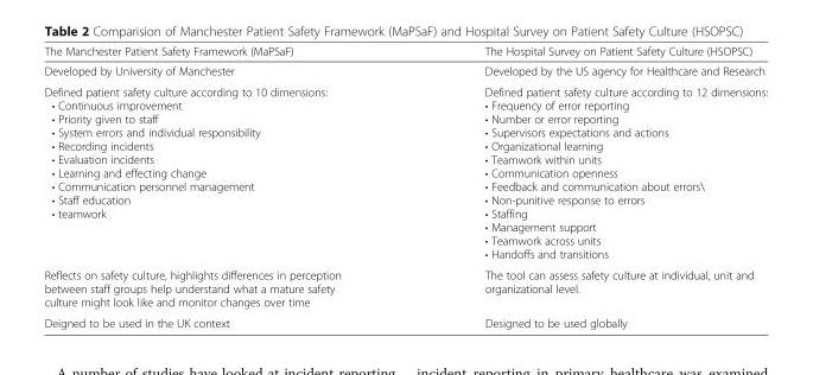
<table><thead><tr><td>The Manchester Patient Safety Framework (MaPSaF)</td><td>The Hospital Survey on Patient Safety Culture (HSOPSC)</td></tr></thead><tbody><tr><td>Developed by University of Manchester</td><td>Developed by the US agency for Healthcare and Research</td></tr><tr><td>Defined patient safety culture according to 10 dimensions: • Continuous improvement • Priority given to staff • System errors and individual responsibility • Recording incidents • Evaluation incidents • Learning and effecting change • Communication personnel management • Staff education • teamwork</td><td>Defined patient safety culture according to 12 dimensions: • Frequency of error reporting • Number or error reporting • Supervisors expectations and actions • Organizational learning • Teamwork within units • Communication openness • Feedback and communication about errors\ • Non-punitive response to errors • Staffing • Management support • Teamwork across units • Handoffs and transitions</td></tr><tr><td>Reflects on safety culture, highlights differences in perception between staff groups help understand what a mature safety culture might look like and monitor changes over time</td><td>The tool can assess safety culture at individual, unit and organizational level.</td></tr><tr><td>Deigned to be used in the UK context</td><td>Designed to be used globally</td></tr></tbody></table>